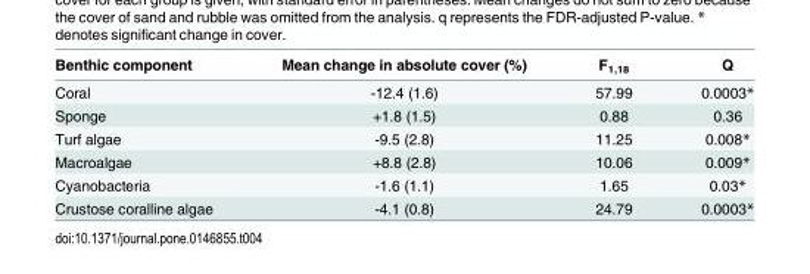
<table><thead><tr><td>Benthic component</td><td>Mean change in absolute cover (%)</td><td>F<sub>1,18</sub></td><td>Q</td></tr></thead><tbody><tr><td>Coral</td><td>-12.4 (1.6)</td><td>57.99</td><td>0.0003*</td></tr><tr><td>Sponge</td><td>+1.8 (1.5)</td><td>0.88</td><td>0.36</td></tr><tr><td>Turf algae</td><td>-9.5 (2.8)</td><td>11.25</td><td>0.008*</td></tr><tr><td>Macroalgae</td><td>+8.8 (2.8)</td><td>10.06</td><td>0.009*</td></tr><tr><td>Cyanobacteria</td><td>-1.6 (1.1)</td><td>1.65</td><td>0.03*</td></tr><tr><td>Crustose coralline algae</td><td>-4.1 (0.8)</td><td>24.79</td><td>0.0003*</td></tr></tbody></table>